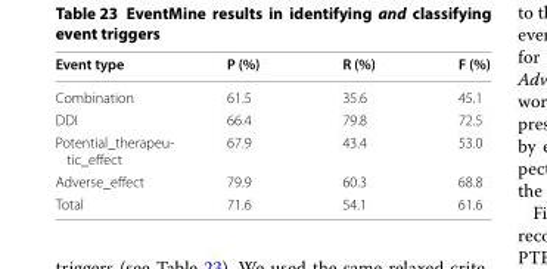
<table><thead><tr><td>Event type</td><td>P (%)</td><td>R (%)</td><td>F (%)</td></tr></thead><tbody><tr><td>Combination</td><td>61.5</td><td>35.6</td><td>45.1</td></tr><tr><td>DDI</td><td>66.4</td><td>79.8</td><td>72.5</td></tr><tr><td>Potential_therapeu‑ tic_effect</td><td>67.9</td><td>43.4</td><td>53.0</td></tr><tr><td>Adverse_effect</td><td>79.9</td><td>60.3</td><td>68.8</td></tr><tr><td>Total</td><td>71.6</td><td>54.1</td><td>61.6</td></tr></tbody></table>